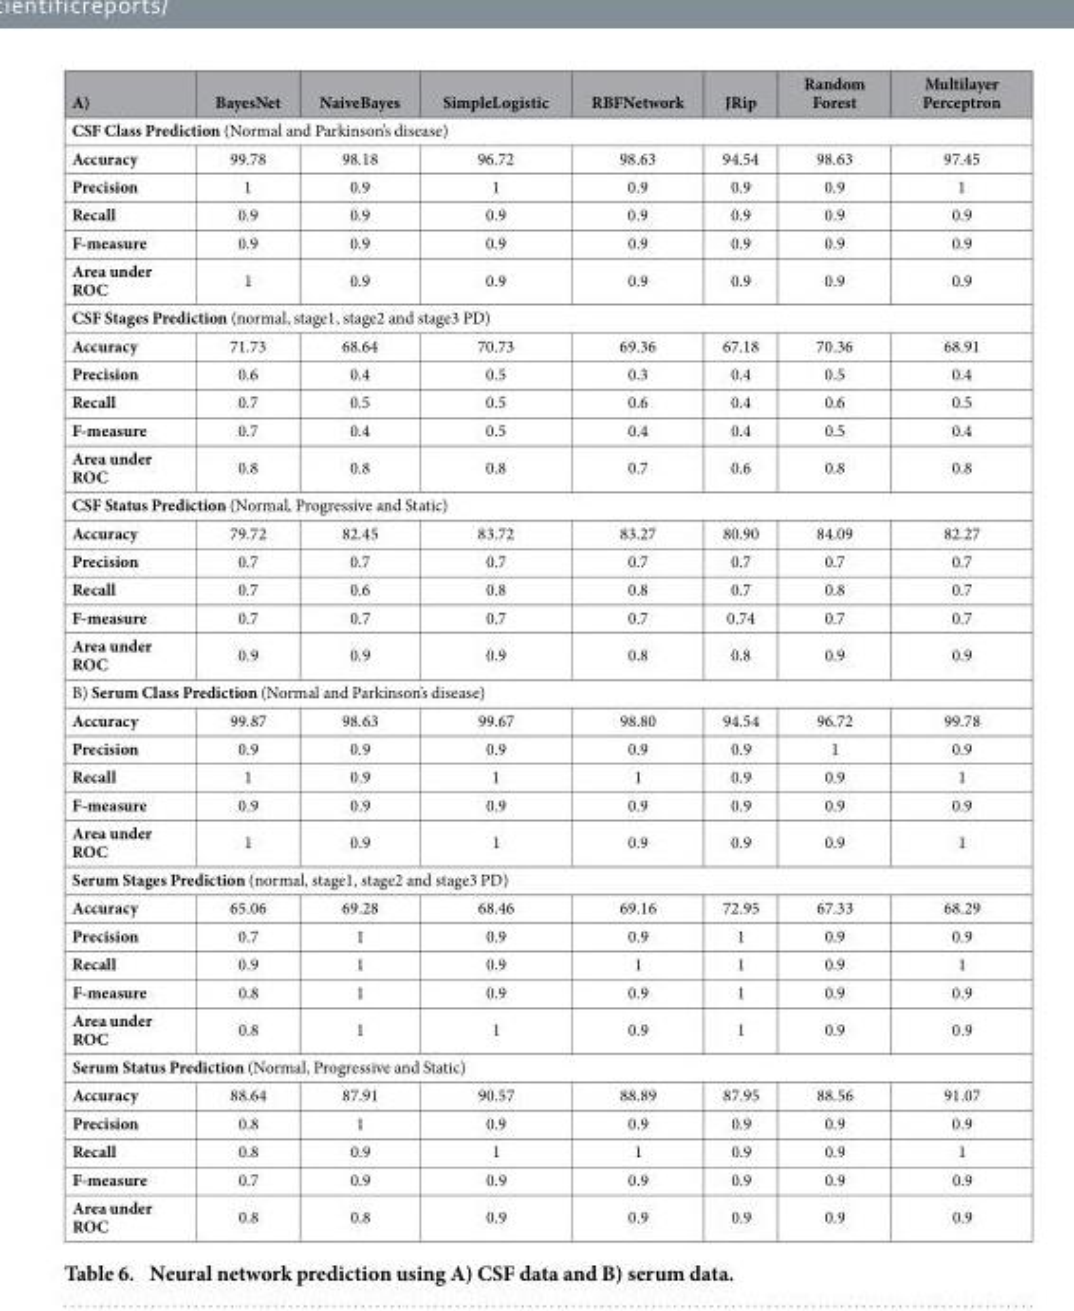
<table><thead><tr><td>A)</td><td>BayesNet</td><td>NaiveBayes</td><td>SimpleLogistic</td><td>RBFNetwork</td><td>JRip</td><td>Random Forest</td><td>Multilayer Perceptron</td></tr></thead><tbody><tr><td colspan="8">CSF Class Prediction (Normal and Parkinson’s disease)</td></tr><tr><td>Accuracy</td><td>99.78</td><td>98.18</td><td>96.72</td><td>98.63</td><td>94.54</td><td>98.63</td><td>97.45</td></tr><tr><td>Precision</td><td>1</td><td>0.9</td><td>1</td><td>0.9</td><td>0.9</td><td>0.9</td><td>1</td></tr><tr><td>Recall</td><td>0.9</td><td>0.9</td><td>0.9</td><td>0.9</td><td>0.9</td><td>0.9</td><td>0.9</td></tr><tr><td>F-measure</td><td>0.9</td><td>0.9</td><td>0.9</td><td>0.9</td><td>0.9</td><td>0.9</td><td>0.9</td></tr><tr><td>Area under ROC</td><td>1</td><td>0.9</td><td>0.9</td><td>0.9</td><td>0.9</td><td>0.9</td><td>0.9</td></tr><tr><td colspan="8">CSF Stages Prediction (normal, stage1, stage2 and stage3 PD)</td></tr><tr><td>Accuracy</td><td>71.73</td><td>68.64</td><td>70.73</td><td>69.36</td><td>67.18</td><td>70.36</td><td>68.91</td></tr><tr><td>Precision</td><td>0.6</td><td>0.4</td><td>0.5</td><td>0.3</td><td>0.4</td><td>0.5</td><td>0.4</td></tr><tr><td>Recall</td><td>0.7</td><td>0.5</td><td>0.5</td><td>0.6</td><td>0.4</td><td>0.6</td><td>0.5</td></tr><tr><td>F-measure</td><td>0.7</td><td>0.4</td><td>0.5</td><td>0.4</td><td>0.4</td><td>0.5</td><td>0.4</td></tr><tr><td>Area under ROC</td><td>0.8</td><td>0.8</td><td>0.8</td><td>0.7</td><td>0.6</td><td>0.8</td><td>0.8</td></tr><tr><td colspan="8">CSF Status Prediction (Normal, Progressive and Static)</td></tr><tr><td>Accuracy</td><td>79.72</td><td>82.45</td><td>83.72</td><td>83.27</td><td>80.90</td><td>84.09</td><td>82.27</td></tr><tr><td>Precision</td><td>0.7</td><td>0.7</td><td>0.7</td><td>0.7</td><td>0.7</td><td>0.7</td><td>0.7</td></tr><tr><td>Recall</td><td>0.7</td><td>0.6</td><td>0.8</td><td>0.8</td><td>0.7</td><td>0.8</td><td>0.7</td></tr><tr><td>F-measure</td><td>0.7</td><td>0.7</td><td>0.7</td><td>0.7</td><td>0.74</td><td>0.7</td><td>0.7</td></tr><tr><td>Area under ROC</td><td>0.9</td><td>0.9</td><td>0.9</td><td>0.8</td><td>0.8</td><td>0.9</td><td>0.9</td></tr><tr><td colspan="8">B) Serum Class Prediction (Normal and Parkinson’s disease)</td></tr><tr><td>Accuracy</td><td>99.87</td><td>98.63</td><td>99.67</td><td>98.80</td><td>94.54</td><td>96.72</td><td>99.78</td></tr><tr><td>Precision</td><td>0.9</td><td>0.9</td><td>0.9</td><td>0.9</td><td>0.9</td><td>1</td><td>0.9</td></tr><tr><td>Recall</td><td>1</td><td>0.9</td><td>1</td><td>1</td><td>0.9</td><td>0.9</td><td>1</td></tr><tr><td>F-measure</td><td>0.9</td><td>0.9</td><td>0.9</td><td>0.9</td><td>0.9</td><td>0.9</td><td>0.9</td></tr><tr><td>Area under ROC</td><td>1</td><td>0.9</td><td>1</td><td>0.9</td><td>0.9</td><td>0.9</td><td>1</td></tr><tr><td colspan="8">Serum Stages Prediction (normal, stage1, stage2 and stage3 PD)</td></tr><tr><td>Accuracy</td><td>65.06</td><td>69.28</td><td>68.46</td><td>69.16</td><td>72.95</td><td>67.33</td><td>68.29</td></tr><tr><td>Precision</td><td>0.7</td><td>1</td><td>0.9</td><td>0.9</td><td>1</td><td>0.9</td><td>0.9</td></tr><tr><td>Recall</td><td>0.9</td><td>1</td><td>0.9</td><td>1</td><td>1</td><td>0.9</td><td>1</td></tr><tr><td>F-measure</td><td>0.8</td><td>1</td><td>0.9</td><td>0.9</td><td>1</td><td>0.9</td><td>0.9</td></tr><tr><td>Area under ROC</td><td>0.8</td><td>1</td><td>1</td><td>0.9</td><td>1</td><td>0.9</td><td>0.9</td></tr><tr><td colspan="8">Serum Status Prediction (Normal, Progressive and Static)</td></tr><tr><td>Accuracy</td><td>88.64</td><td>87.91</td><td>90.57</td><td>88.89</td><td>87.95</td><td>88.56</td><td>91.07</td></tr><tr><td>Precision</td><td>0.8</td><td>1</td><td>0.9</td><td>0.9</td><td>0.9</td><td>0.9</td><td>0.9</td></tr><tr><td>Recall</td><td>0.8</td><td>0.9</td><td>1</td><td>1</td><td>0.9</td><td>0.9</td><td>1</td></tr><tr><td>F-measure</td><td>0.7</td><td>0.9</td><td>0.9</td><td>0.9</td><td>0.9</td><td>0.9</td><td>0.9</td></tr><tr><td>Area under ROC</td><td>0.8</td><td>0.8</td><td>0.9</td><td>0.9</td><td>0.9</td><td>0.9</td><td>0.9</td></tr></tbody></table>